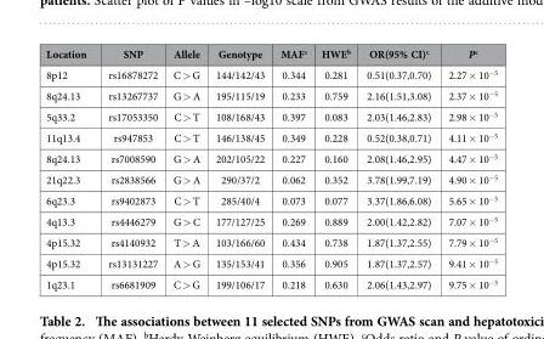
<table><thead><tr><td>Location</td><td>SNP</td><td>Allele</td><td>Genotype</td><td>MAF<sup>a</sup></td><td>HWE<sup>b</sup></td><td>OR(95% CI)<sup>c</sup></td><td>P<sup>c</sup></td></tr></thead><tbody><tr><td>8p12</td><td>rs16878272</td><td>C &gt; G</td><td>144/142/43</td><td>0.344</td><td>0.281</td><td>0.51(0.37,0.70)</td><td>2.27 × 10<sup>−5</sup></td></tr><tr><td>8q24.13</td><td>rs13267737</td><td>G &gt; A</td><td>195/115/19</td><td>0.233</td><td>0.759</td><td>2.16(1.51,3.08)</td><td>2.37 × 10<sup>−5</sup></td></tr><tr><td>5q33.2</td><td>rs17053350</td><td>C &gt; T</td><td>108/168/43</td><td>0.397</td><td>0.083</td><td>2.03(1.46,2.83)</td><td>2.98 × 10<sup>−5</sup></td></tr><tr><td>11q13.4</td><td>rs947853</td><td>C &gt; T</td><td>146/138/45</td><td>0.349</td><td>0.228</td><td>0.52(0.38,0.71)</td><td>4.11 × 10<sup>−5</sup></td></tr><tr><td>8q24.13</td><td>rs7008590</td><td>G &gt; A</td><td>202/105/22</td><td>0.227</td><td>0.160</td><td>2.08(1.46,2.95)</td><td>4.47 × 10<sup>−5</sup></td></tr><tr><td>21q22.3</td><td>rs2838566</td><td>G &gt; A</td><td>290/37/2</td><td>0.062</td><td>0.352</td><td>3.78(1.99,7.19)</td><td>4.90 × 10<sup>−5</sup></td></tr><tr><td>6q23.3</td><td>rs9402873</td><td>C &gt; T</td><td>285/40/4</td><td>0.073</td><td>0.077</td><td>3.37(1.86,6.08)</td><td>5.65 × 10<sup>−5</sup></td></tr><tr><td>4q13.3</td><td>rs4446279</td><td>G &gt; C</td><td>177/127/25</td><td>0.269</td><td>0.889</td><td>2.00(1.42,2.82)</td><td>7.07 × 10<sup>−5</sup></td></tr><tr><td>4p15.32</td><td>rs4140932</td><td>T &gt; A</td><td>103/166/60</td><td>0.434</td><td>0.738</td><td>1.87(1.37,2.55)</td><td>7.79 × 10<sup>−5</sup></td></tr><tr><td>4p15.32</td><td>rs13131227</td><td>A &gt; G</td><td>135/153/41</td><td>0.356</td><td>0.905</td><td>1.87(1.37,2.57)</td><td>9.41 × 10<sup>−5</sup></td></tr><tr><td>1q23.1</td><td>rs6681909</td><td>C &gt; G</td><td>199/106/17</td><td>0.218</td><td>0.630</td><td>2.06(1.43,2.97)</td><td>9.75 × 10<sup>−5</sup></td></tr></tbody></table>